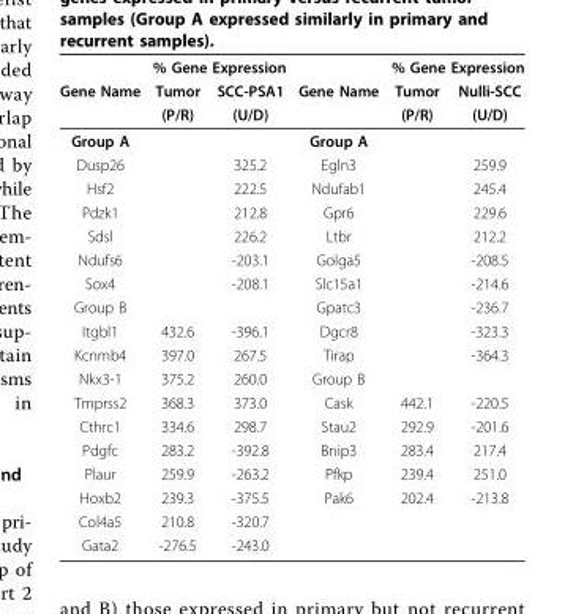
<table><thead><tr><td rowspan="3">Gene Name</td><td colspan="2">% Gene Expression</td><td rowspan="3">Gene Name</td><td colspan="2">% Gene Expression</td></tr><tr><td rowspan="2">Tumor (P/R)</td><td rowspan="2">SCC-PSA1 (U/D)</td><td rowspan="2">Tumor (P/R)</td><td rowspan="2">Nulli-SCC (U/D)</td></tr><tr></tr></thead><tbody><tr><td>Group A</td><td></td><td></td><td>Group A</td><td></td><td></td></tr><tr><td>Dusp26</td><td></td><td>325.2</td><td>Egln3</td><td></td><td>259.9</td></tr><tr><td>Hsf2</td><td></td><td>222.5</td><td>Ndufab1</td><td></td><td>245.4</td></tr><tr><td>Pdzk1</td><td></td><td>212.8</td><td>Gpr6</td><td></td><td>229.6</td></tr><tr><td>Sdsl</td><td></td><td>226.2</td><td>Ltbr</td><td></td><td>212.2</td></tr><tr><td>Ndufs6</td><td></td><td>-203.1</td><td>Golga5</td><td></td><td>-208.5</td></tr><tr><td>Sox4</td><td></td><td>-208.1</td><td>Slc15a1</td><td></td><td>-214.6</td></tr><tr><td>Group B</td><td></td><td></td><td>Gpatc3</td><td></td><td>-236.7</td></tr><tr><td>Itgbl1</td><td>432.6</td><td>-396.1</td><td>Dgcr8</td><td></td><td>-323.3</td></tr><tr><td>Kcnmb4</td><td>397.0</td><td>267.5</td><td>Tirap</td><td></td><td>-364.3</td></tr><tr><td>Nkx3-1</td><td>375.2</td><td>260.0</td><td>Group B</td><td></td><td></td></tr><tr><td>Tmprss2</td><td>368.3</td><td>373.0</td><td>Cask</td><td>442.1</td><td>-220.5</td></tr><tr><td>Cthrc1</td><td>334.6</td><td>298.7</td><td>Stau2</td><td>292.9</td><td>-201.6</td></tr><tr><td>Pdgfc</td><td>283.2</td><td>-392.8</td><td>Bnip3</td><td>283.4</td><td>217.4</td></tr><tr><td>Plaur</td><td>259.9</td><td>-263.2</td><td>Pfkp</td><td>239.4</td><td>251.0</td></tr><tr><td>Hoxb2</td><td>239.3</td><td>-375.5</td><td>Pak6</td><td>202.4</td><td>-213.8</td></tr><tr><td>Col4a5</td><td>210.8</td><td>-320.7</td><td></td><td></td><td></td></tr><tr><td>Gata2</td><td>-276.5</td><td>-243.0</td><td></td><td></td><td></td></tr></tbody></table>